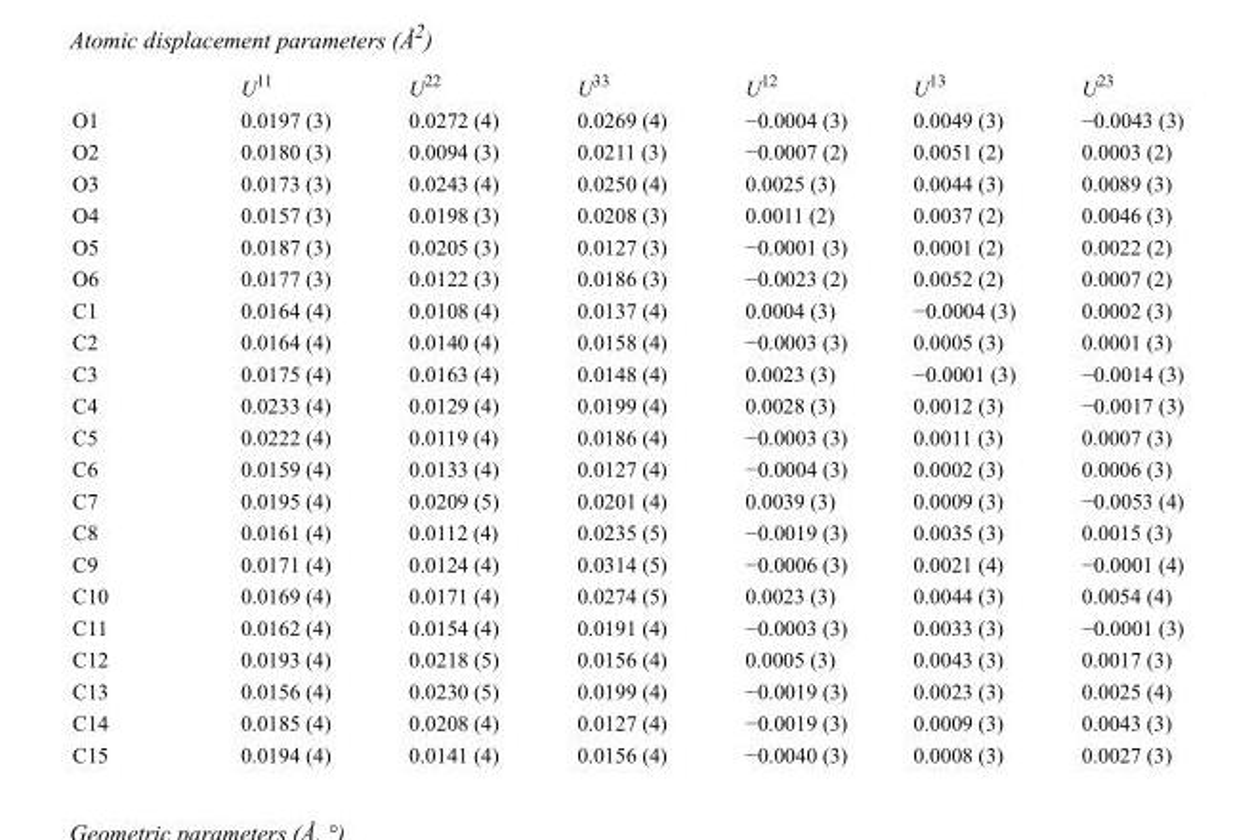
<table><thead><tr><td></td><td>U<sup>11</sup></td><td>U<sup>22</sup></td><td>U<sup>33</sup></td><td>U<sup>12</sup></td><td>U<sup>13</sup></td><td>U<sup>23</sup></td></tr></thead><tbody><tr><td>O1</td><td>0.0197 (3)</td><td>0.0272 (4)</td><td>0.0269 (4)</td><td>−0.0004 (3)</td><td>0.0049 (3)</td><td>−0.0043 (3)</td></tr><tr><td>O2</td><td>0.0180 (3)</td><td>0.0094 (3)</td><td>0.0211 (3)</td><td>−0.0007 (2)</td><td>0.0051 (2)</td><td>0.0003 (2)</td></tr><tr><td>O3</td><td>0.0173 (3)</td><td>0.0243 (4)</td><td>0.0250 (4)</td><td>0.0025 (3)</td><td>0.0044 (3)</td><td>0.0089 (3)</td></tr><tr><td>O4</td><td>0.0157 (3)</td><td>0.0198 (3)</td><td>0.0208 (3)</td><td>0.0011 (2)</td><td>0.0037 (2)</td><td>0.0046 (3)</td></tr><tr><td>O5</td><td>0.0187 (3)</td><td>0.0205 (3)</td><td>0.0127 (3)</td><td>−0.0001 (3)</td><td>0.0001 (2)</td><td>0.0022 (2)</td></tr><tr><td>O6</td><td>0.0177 (3)</td><td>0.0122 (3)</td><td>0.0186 (3)</td><td>−0.0023 (2)</td><td>0.0052 (2)</td><td>0.0007 (2)</td></tr><tr><td>C1</td><td>0.0164 (4)</td><td>0.0108 (4)</td><td>0.0137 (4)</td><td>0.0004 (3)</td><td>−0.0004 (3)</td><td>0.0002 (3)</td></tr><tr><td>C2</td><td>0.0164 (4)</td><td>0.0140 (4)</td><td>0.0158 (4)</td><td>−0.0003 (3)</td><td>0.0005 (3)</td><td>0.0001 (3)</td></tr><tr><td>C3</td><td>0.0175 (4)</td><td>0.0163 (4)</td><td>0.0148 (4)</td><td>0.0023 (3)</td><td>−0.0001 (3)</td><td>−0.0014 (3)</td></tr><tr><td>C4</td><td>0.0233 (4)</td><td>0.0129 (4)</td><td>0.0199 (4)</td><td>0.0028 (3)</td><td>0.0012 (3)</td><td>−0.0017 (3)</td></tr><tr><td>C5</td><td>0.0222 (4)</td><td>0.0119 (4)</td><td>0.0186 (4)</td><td>−0.0003 (3)</td><td>0.0011 (3)</td><td>0.0007 (3)</td></tr><tr><td>C6</td><td>0.0159 (4)</td><td>0.0133 (4)</td><td>0.0127 (4)</td><td>−0.0004 (3)</td><td>0.0002 (3)</td><td>0.0006 (3)</td></tr><tr><td>C7</td><td>0.0195 (4)</td><td>0.0209 (5)</td><td>0.0201 (4)</td><td>0.0039 (3)</td><td>0.0009 (3)</td><td>−0.0053 (4)</td></tr><tr><td>C8</td><td>0.0161 (4)</td><td>0.0112 (4)</td><td>0.0235 (5)</td><td>−0.0019 (3)</td><td>0.0035 (3)</td><td>0.0015 (3)</td></tr><tr><td>C9</td><td>0.0171 (4)</td><td>0.0124 (4)</td><td>0.0314 (5)</td><td>−0.0006 (3)</td><td>0.0021 (4)</td><td>−0.0001 (4)</td></tr><tr><td>C10</td><td>0.0169 (4)</td><td>0.0171 (4)</td><td>0.0274 (5)</td><td>0.0023 (3)</td><td>0.0044 (3)</td><td>0.0054 (4)</td></tr><tr><td>C11</td><td>0.0162 (4)</td><td>0.0154 (4)</td><td>0.0191 (4)</td><td>−0.0003 (3)</td><td>0.0033 (3)</td><td>−0.0001 (3)</td></tr><tr><td>C12</td><td>0.0193 (4)</td><td>0.0218 (5)</td><td>0.0156 (4)</td><td>0.0005 (3)</td><td>0.0043 (3)</td><td>0.0017 (3)</td></tr><tr><td>C13</td><td>0.0156 (4)</td><td>0.0230 (5)</td><td>0.0199 (4)</td><td>−0.0019 (3)</td><td>0.0023 (3)</td><td>0.0025 (4)</td></tr><tr><td>C14</td><td>0.0185 (4)</td><td>0.0208 (4)</td><td>0.0127 (4)</td><td>−0.0019 (3)</td><td>0.0009 (3)</td><td>0.0043 (3)</td></tr><tr><td>C15</td><td>0.0194 (4)</td><td>0.0141 (4)</td><td>0.0156 (4)</td><td>−0.0040 (3)</td><td>0.0008 (3)</td><td>0.0027 (3)</td></tr></tbody></table>